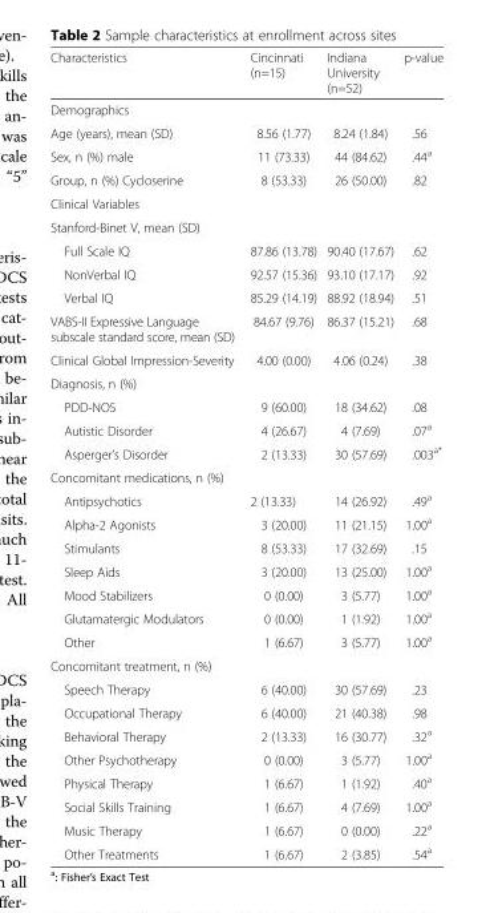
<table><thead><tr><td>Characteristics</td><td>Cincinnati (n=15)</td><td>Indiana University (n=52)</td><td>p-value</td></tr></thead><tbody><tr><td colspan="4">Demographics</td></tr><tr><td>Age (years), mean (SD)</td><td>8.56 (1.77)</td><td>8.24 (1.84)</td><td>.56</td></tr><tr><td>Sex, n (%) male</td><td>11 (73.33)</td><td>44 (84.62)</td><td>.44<sup>a</sup></td></tr><tr><td>Group, n (%) Cycloserine</td><td>8 (53.33)</td><td>26 (50.00)</td><td>.82</td></tr><tr><td colspan="4">Clinical Variables</td></tr><tr><td colspan="4">Stanford-Binet V, mean (SD)</td></tr><tr><td>Full Scale IQ</td><td>87.86 (13.78)</td><td>90.40 (17.67)</td><td>.62</td></tr><tr><td>NonVerbal IQ</td><td>92.57 (15.36)</td><td>93.10 (17.17)</td><td>.92</td></tr><tr><td>Verbal IQ</td><td>85.29 (14.19)</td><td>88.92 (18.94)</td><td>.51</td></tr><tr><td>VABS-II Expressive Language subscale standard score, mean (SD)</td><td>84.67 (9.76)</td><td>86.37 (15.21)</td><td>.68</td></tr><tr><td>Clinical Global Impression-Severity</td><td>4.00 (0.00)</td><td>4.06 (0.24)</td><td>.38</td></tr><tr><td colspan="4">Diagnosis, n (%)</td></tr><tr><td>PDD-NOS</td><td>9 (60.00)</td><td>18 (34.62)</td><td>.08</td></tr><tr><td>Autistic Disorder</td><td>4 (26.67)</td><td>4 (7.69)</td><td>.07<sup>a</sup></td></tr><tr><td>Asperger’s Disorder</td><td>2 (13.33)</td><td>30 (57.69)</td><td>.003<sup>a*</sup></td></tr><tr><td colspan="4">Concomitant medications, n (%)</td></tr><tr><td>Antipsychotics</td><td>2 (13.33)</td><td>14 (26.92)</td><td>.49<sup>a</sup></td></tr><tr><td>Alpha-2 Agonists</td><td>3 (20.00)</td><td>11 (21.15)</td><td>1.00<sup>a</sup></td></tr><tr><td>Stimulants</td><td>8 (53.33)</td><td>17 (32.69)</td><td>.15</td></tr><tr><td>Sleep Aids</td><td>3 (20.00)</td><td>13 (25.00)</td><td>1.00<sup>a</sup></td></tr><tr><td>Mood Stabilizers</td><td>0 (0.00)</td><td>3 (5.77)</td><td>1.00<sup>a</sup></td></tr><tr><td>Glutamatergic Modulators</td><td>0 (0.00)</td><td>1 (1.92)</td><td>1.00<sup>a</sup></td></tr><tr><td>Other</td><td>1 (6.67)</td><td>3 (5.77)</td><td>1.00<sup>a</sup></td></tr><tr><td colspan="4">Concomitant treatment, n (%)</td></tr><tr><td>Speech Therapy</td><td>6 (40.00)</td><td>30 (57.69)</td><td>.23</td></tr><tr><td>Occupational Therapy</td><td>6 (40.00)</td><td>21 (40.38)</td><td>.98</td></tr><tr><td>Behavioral Therapy</td><td>2 (13.33)</td><td>16 (30.77)</td><td>.32<sup>a</sup></td></tr><tr><td>Other Psychotherapy</td><td>0 (0.00)</td><td>3 (5.77)</td><td>1.00<sup>a</sup></td></tr><tr><td>Physical Therapy</td><td>1 (6.67)</td><td>1 (1.92)</td><td>.40<sup>a</sup></td></tr><tr><td>Social Skills Training</td><td>1 (6.67)</td><td>4 (7.69)</td><td>1.00<sup>a</sup></td></tr><tr><td>Music Therapy</td><td>1 (6.67)</td><td>0 (0.00)</td><td>.22<sup>a</sup></td></tr><tr><td>Other Treatments</td><td>1 (6.67)</td><td>2 (3.85)</td><td>.54<sup>a</sup></td></tr></tbody></table>